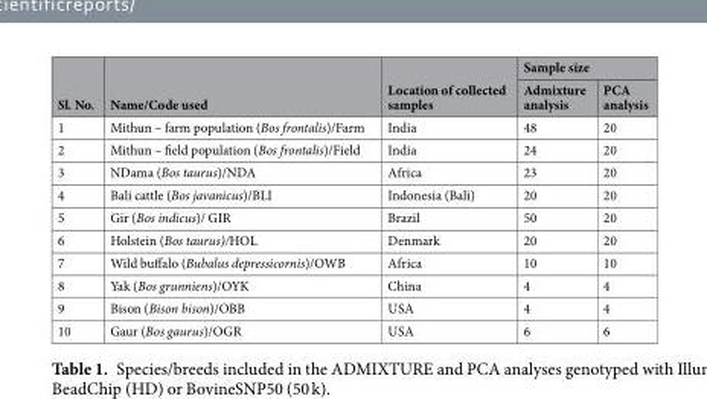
<table><thead><tr><td rowspan="2">Sl. No.</td><td rowspan="2">Name/Code used</td><td rowspan="2">Location of collected samples</td><td colspan="2">Sample size</td></tr><tr><td>Admixture analysis</td><td>PCA analysis</td></tr></thead><tbody><tr><td>1</td><td>Mithun – farm population (Bos frontalis)/Farm</td><td>India</td><td>48</td><td>20</td></tr><tr><td>2</td><td>Mithun – field population (Bos frontalis)/Field</td><td>India</td><td>24</td><td>20</td></tr><tr><td>3</td><td>NDama (Bos taurus)/NDA</td><td>Africa</td><td>23</td><td>20</td></tr><tr><td>4</td><td>Bali cattle (Bos javanicus)/BLI</td><td>Indonesia (Bali)</td><td>20</td><td>20</td></tr><tr><td>5</td><td>Gir (Bos indicus)/ GIR</td><td>Brazil</td><td>50</td><td>20</td></tr><tr><td>6</td><td>Holstein (Bos taurus)/HOL</td><td>Denmark</td><td>20</td><td>20</td></tr><tr><td>7</td><td>Wild buffalo (Bubalus depressicornis)/OWB</td><td>Africa</td><td>10</td><td>10</td></tr><tr><td>8</td><td>Yak (Bos grunniens)/OYK</td><td>China</td><td>4</td><td>4</td></tr><tr><td>9</td><td>Bison (Bison bison)/OBB</td><td>USA</td><td>4</td><td>4</td></tr><tr><td>10</td><td>Gaur (Bos gaurus)/OGR</td><td>USA</td><td>6</td><td>6</td></tr></tbody></table>